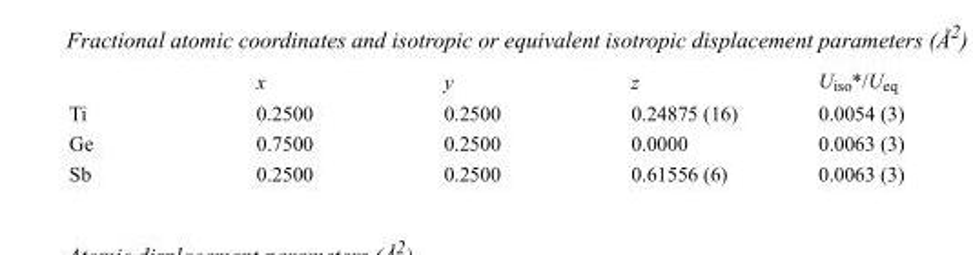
<table><thead><tr><td></td><td>x</td><td>y</td><td>z</td><td>U<sub>iso</sub>*/U<sub>eq</sub></td></tr></thead><tbody><tr><td>Ti</td><td>0.2500</td><td>0.2500</td><td>0.24875 (16)</td><td>0.0054 (3)</td></tr><tr><td>Ge</td><td>0.7500</td><td>0.2500</td><td>0.0000</td><td>0.0063 (3)</td></tr><tr><td>Sb</td><td>0.2500</td><td>0.2500</td><td>0.61556 (6)</td><td>0.0063 (3)</td></tr></tbody></table>